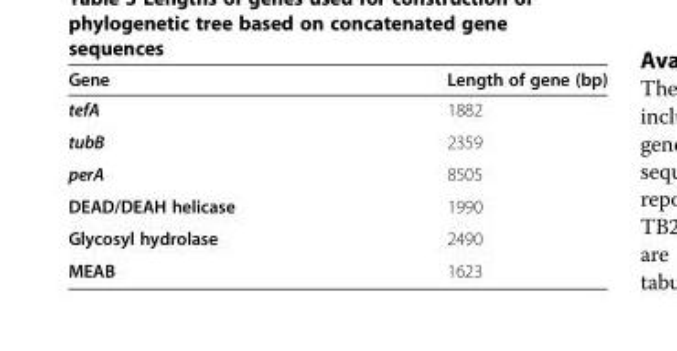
<table><thead><tr><td>Gene</td><td>Length of gene (bp)</td></tr></thead><tbody><tr><td>tefA</td><td>1882</td></tr><tr><td>tubB</td><td>2359</td></tr><tr><td>perA</td><td>8505</td></tr><tr><td>DEAD/DEAH helicase</td><td>1990</td></tr><tr><td>Glycosyl hydrolase</td><td>2490</td></tr><tr><td>MEAB</td><td>1623</td></tr></tbody></table>